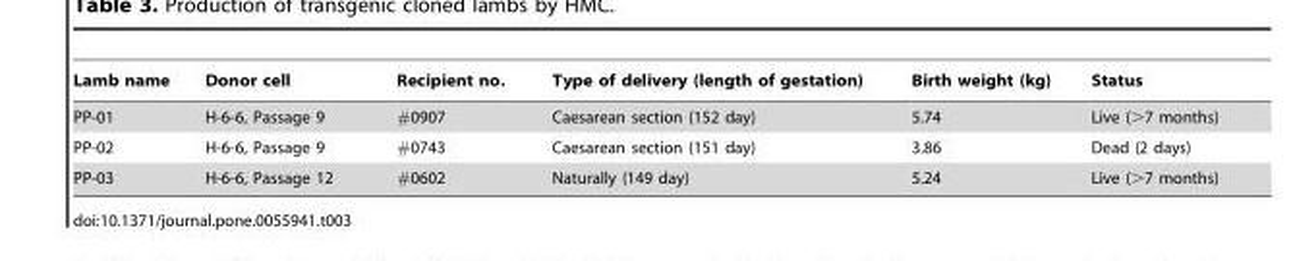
<table><thead><tr><td>Lamb name</td><td>Donor cell</td><td>Recipient no.</td><td>Type of delivery (length of gestation)</td><td>Birth weight (kg)</td><td>Status</td></tr></thead><tbody><tr><td>PP-01</td><td>H-6-6, Passage 9</td><td>#0907</td><td>Caesarean section (152 day)</td><td>5.74</td><td>Live (&gt;7 months)</td></tr><tr><td>PP-02</td><td>H-6-6, Passage 9</td><td>#0743</td><td>Caesarean section (151 day)</td><td>3.86</td><td>Dead (2 days)</td></tr><tr><td>PP-03</td><td>H-6-6, Passage 12</td><td>#0602</td><td>Naturally (149 day)</td><td>5.24</td><td>Live (&gt;7 months)</td></tr></tbody></table>